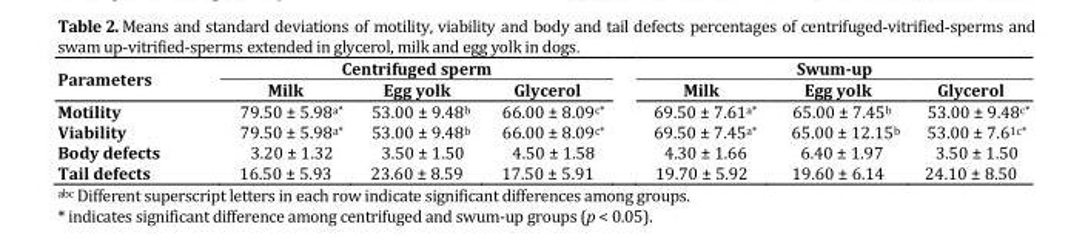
<table><thead><tr><td rowspan="2">Parameters</td><td colspan="3">Centrifuged sperm</td><td colspan="3">Swum-up</td></tr><tr><td>Milk</td><td>Egg yolk</td><td>Glycerol</td><td>Milk</td><td>Egg yolk</td><td>Glycerol</td></tr></thead><tbody><tr><td>Motility</td><td>79.50 ± 5.98<sup>a</sup>*</td><td>53.00 ± 9.48<sup>b</sup></td><td>66.00 ± 8.09<sup>c</sup>*</td><td>69.50 ± 7.61<sup>a</sup>*</td><td>65.00 ± 7.45<sup>b</sup></td><td>53.00 ± 9.48<sup>c</sup>*</td></tr><tr><td>Viability</td><td>79.50 ± 5.98<sup>a</sup>*</td><td>53.00 ± 9.48<sup>b</sup></td><td>66.00 ± 8.09<sup>c</sup>*</td><td>69.50 ± 7.45<sup>a</sup>*</td><td>65.00 ± 12.15<sup>b</sup></td><td>53.00 ± 7.61<sup>c</sup>*</td></tr><tr><td>Body defects</td><td>3.20 ± 1.32</td><td>3.50 ± 1.50</td><td>4.50 ± 1.58</td><td>4.30 ± 1.66</td><td>6.40 ± 1.97</td><td>3.50 ± 1.50</td></tr><tr><td>Tail defects</td><td>16.50 ± 5.93</td><td>23.60 ± 8.59</td><td>17.50 ± 5.91</td><td>19.70 ± 5.92</td><td>19.60 ± 6.14</td><td>24.10 ± 8.50</td></tr></tbody></table>